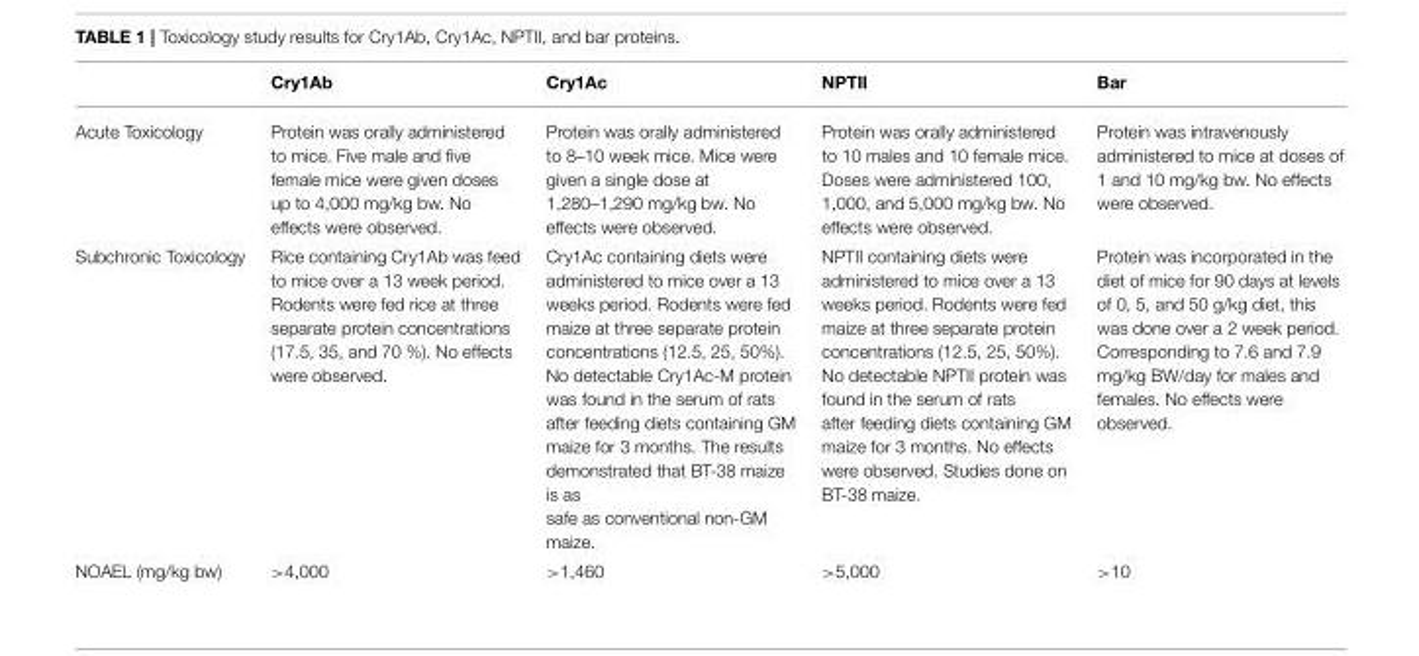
<table><thead><tr><td></td><td>Cry1Ab</td><td>Cry1Ac</td><td>NPTII</td><td>Bar</td></tr></thead><tbody><tr><td>Acute Toxicology</td><td>Protein was orally administered to mice. Five male and five female mice were given doses up to 4,000 mg/kg bw. No effects were observed.</td><td>Protein was orally administered to 8–10 week mice. Mice were given a single dose at 1,280–1,290 mg/kg bw. No effects were observed.</td><td>Protein was orally administered to 10 males and 10 female mice. Doses were administered 100, 1,000, and 5,000 mg/kg bw. No effects were observed.</td><td>Protein was intravenously administered to mice at doses of 1 and 10 mg/kg bw. No effects were observed.</td></tr><tr><td>Subchronic Toxicology</td><td>Rice containing Cry1Ab was feed to mice over a 13 week period. Rodents were fed rice at three separate protein concentrations (17.5, 35, and 70 %). No effects were observed.</td><td>Cry1Ac containing diets were administered to mice over a 13 weeks period. Rodents were fed maize at three separate protein concentrations (12.5, 25, 50%). No detectable Cry1Ac-M protein was found in the serum of rats after feeding diets containing GM maize for 3 months. The results demonstrated that BT-38 maize is as safe as conventional non-GM maize.</td><td>NPTII containing diets were administered to mice over a 13 weeks period. Rodents were fed maize at three separate protein concentrations (12.5, 25, 50%). No detectable NPTII protein was found in the serum of rats after feeding diets containing GM maize for 3 months. No effects were observed. Studies done on BT-38 maize.</td><td>Protein was incorporated in the diet of mice for 90 days at levels of 0, 5, and 50 g/kg diet, this was done over a 2 week period. Corresponding to 7.6 and 7.9 mg/kg BW/day for males and females. No effects were observed.</td></tr><tr><td>NOAEL (mg/kg bw)</td><td>&gt;4,000</td><td>&gt;1,460</td><td>&gt;5,000</td><td>&gt;10</td></tr></tbody></table>